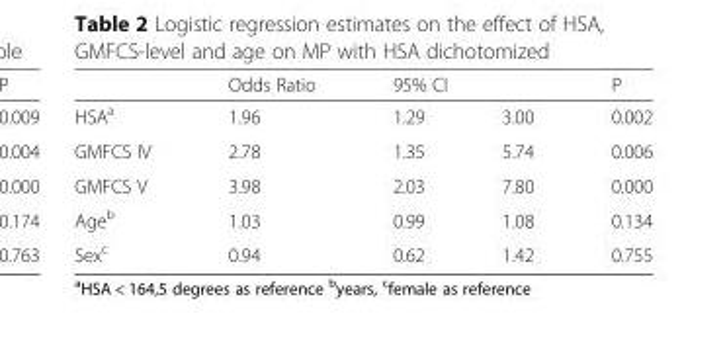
<table><thead><tr><td rowspan="2">HSA<sup>a</sup></td><td rowspan="2">Odds Ratio 1.96</td><td colspan="2">95% CI</td><td rowspan="2">P 0.002</td></tr><tr><td>1.29</td><td>3.00</td></tr></thead><tbody><tr><td>GMFCS IV</td><td>2.78</td><td>1.35</td><td>5.74</td><td>0.006</td></tr><tr><td>GMFCS V</td><td>3.98</td><td>2.03</td><td>7.80</td><td>0.000</td></tr><tr><td>Age<sup>b</sup></td><td>1.03</td><td>0.99</td><td>1.08</td><td>0.134</td></tr><tr><td>Sex<sup>c</sup></td><td>0.94</td><td>0.62</td><td>1.42</td><td>0.755</td></tr></tbody></table>